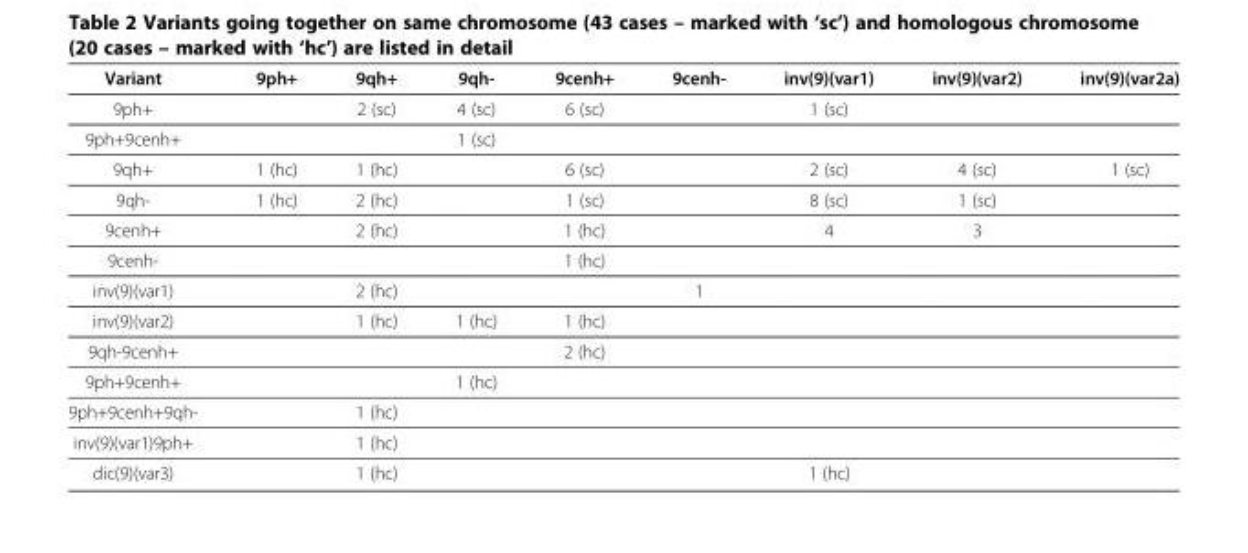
<table><thead><tr><td>Variant</td><td>9ph+</td><td>9qh+</td><td>9qh-</td><td>9cenh+</td><td>9cenh-</td><td>inv(9)(var1)</td><td>inv(9)(var2)</td><td>inv(9)(var2a)</td></tr></thead><tbody><tr><td>9ph+</td><td></td><td>2 (sc)</td><td>4 (sc)</td><td>6 (sc)</td><td></td><td>1 (sc)</td><td></td><td></td></tr><tr><td>9ph+9cenh+</td><td></td><td></td><td>1 (sc)</td><td></td><td></td><td></td><td></td><td></td></tr><tr><td>9qh+</td><td>1 (hc)</td><td>1 (hc)</td><td></td><td>6 (sc)</td><td></td><td>2 (sc)</td><td>4 (sc)</td><td>1 (sc)</td></tr><tr><td>9qh-</td><td>1 (hc)</td><td>2 (hc)</td><td></td><td>1 (sc)</td><td></td><td>8 (sc)</td><td>1 (sc)</td><td></td></tr><tr><td>9cenh+</td><td></td><td>2 (hc)</td><td></td><td>1 (hc)</td><td></td><td>4</td><td>3</td><td></td></tr><tr><td>9cenh-</td><td></td><td></td><td></td><td>1 (hc)</td><td></td><td></td><td></td><td></td></tr><tr><td>inv(9)(var1)</td><td></td><td>2 (hc)</td><td></td><td></td><td>1</td><td></td><td></td><td></td></tr><tr><td>inv(9)(var2)</td><td></td><td>1 (hc)</td><td>1 (hc)</td><td>1 (hc)</td><td></td><td></td><td></td><td></td></tr><tr><td>9qh-9cenh+</td><td></td><td></td><td></td><td>2 (hc)</td><td></td><td></td><td></td><td></td></tr><tr><td>9ph+9cenh+</td><td></td><td></td><td>1 (hc)</td><td></td><td></td><td></td><td></td><td></td></tr><tr><td>9ph+9cenh+9qh-</td><td></td><td>1 (hc)</td><td></td><td></td><td></td><td></td><td></td><td></td></tr><tr><td>inv(9)(var1)9ph+</td><td></td><td>1 (hc)</td><td></td><td></td><td></td><td></td><td></td><td></td></tr><tr><td>dic(9)(var3)</td><td></td><td>1 (hc)</td><td></td><td></td><td></td><td>1 (hc)</td><td></td><td></td></tr></tbody></table>